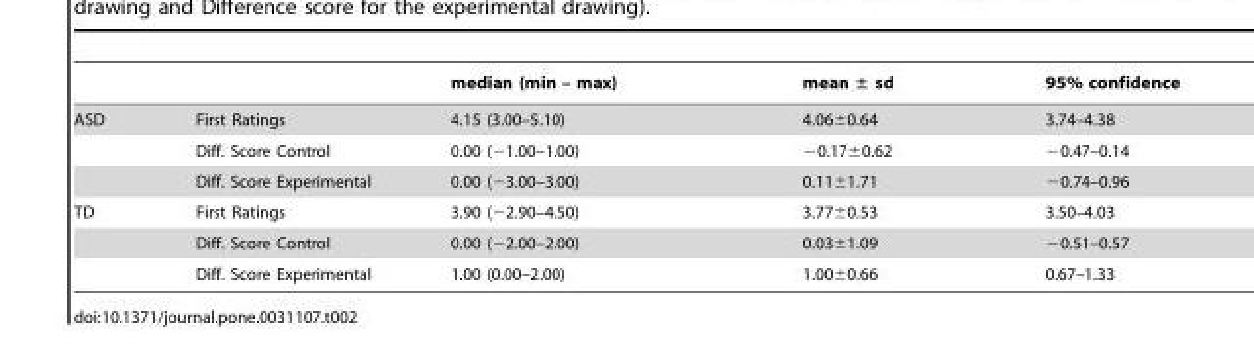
<table><thead><tr><td></td><td></td><td>median (min – max)</td><td>mean ± sd</td><td>95% confidence</td></tr></thead><tbody><tr><td rowspan="3">ASD</td><td>First Ratings</td><td>4.15 (3.00–5.10)</td><td>4.06±0.64</td><td>3.74–4.38</td></tr><tr><td>Diff. Score Control</td><td>0.00 (−1.00–1.00)</td><td>−0.17±0.62</td><td>−0.47–0.14</td></tr><tr><td>Diff. Score Experimental</td><td>0.00 (−3.00–3.00)</td><td>0.11±1.71</td><td>−0.74–0.96</td></tr><tr><td rowspan="3">TD</td><td>First Ratings</td><td>3.90 (−2.90–4.50)</td><td>3.77±0.53</td><td>3.50–4.03</td></tr><tr><td>Diff. Score Control</td><td>0.00 (−2.00–2.00)</td><td>0.03±1.09</td><td>−0.51–0.57</td></tr><tr><td>Diff. Score Experimental</td><td>1.00 (0.00–2.00)</td><td>1.00±0.66</td><td>0.67–1.33</td></tr></tbody></table>